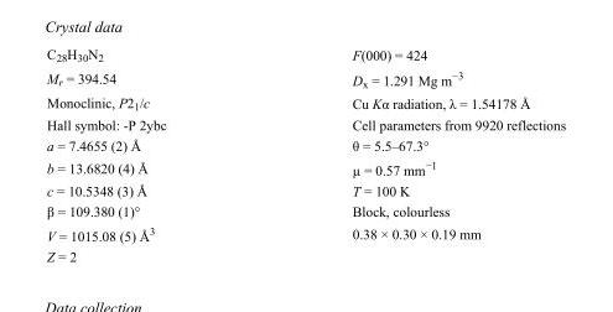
<table><tbody><tr><td>C<sub>28</sub>H<sub>30</sub>N<sub>2</sub></td><td>F(000) = 424</td></tr><tr><td>M<sub>r</sub> = 394.54</td><td>D<sub>x</sub> = 1.291 Mg m<sup>−3</sup></td></tr><tr><td>Monoclinic, P2<sub>1</sub>/c</td><td>Cu Kα radiation, λ = 1.54178 Å</td></tr><tr><td>Hall symbol: -P 2ybc</td><td>Cell parameters from 9920 reflections</td></tr><tr><td>a = 7.4655 (2) Å</td><td>θ = 5.5–67.3°</td></tr><tr><td>b = 13.6820 (4) Å</td><td>µ = 0.57 mm<sup>−1</sup></td></tr><tr><td>c = 10.5348 (3) Å</td><td>T = 100 K</td></tr><tr><td>β = 109.380 (1)°</td><td>Block, colourless</td></tr><tr><td>V = 1015.08 (5) Å<sup>3</sup></td><td>0.38 × 0.30 × 0.19 mm</td></tr><tr><td>Z = 2</td><td></td></tr></tbody></table>